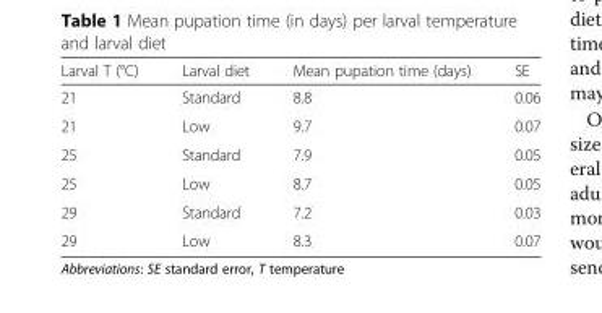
<table><thead><tr><td>Larval T (°C)</td><td>Larval diet</td><td>Mean pupation time (days)</td><td>SE</td></tr></thead><tbody><tr><td>21</td><td>Standard</td><td>8.8</td><td>0.06</td></tr><tr><td>21</td><td>Low</td><td>9.7</td><td>0.07</td></tr><tr><td>25</td><td>Standard</td><td>7.9</td><td>0.05</td></tr><tr><td>25</td><td>Low</td><td>8.7</td><td>0.05</td></tr><tr><td>29</td><td>Standard</td><td>7.2</td><td>0.03</td></tr><tr><td>29</td><td>Low</td><td>8.3</td><td>0.07</td></tr></tbody></table>